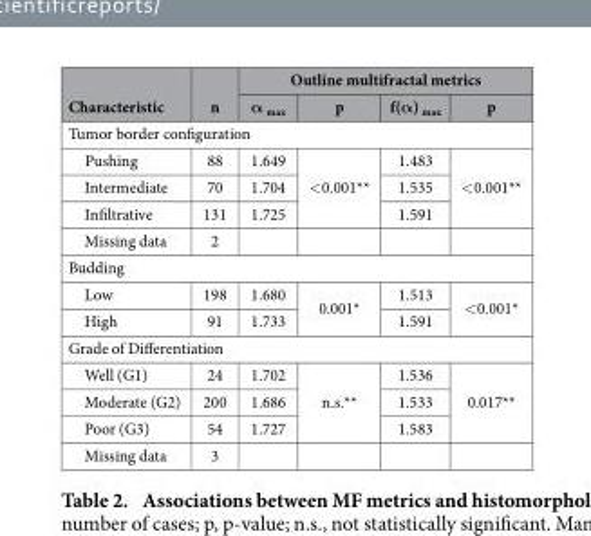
<table><thead><tr><td rowspan="2">Characteristic</td><td rowspan="2">n</td><td colspan="4">Outline multifractal metrics</td></tr><tr><td>α <sub>max</sub></td><td>p</td><td>f(α) <sub>max</sub></td><td>p</td></tr></thead><tbody><tr><td colspan="6">Tumor border configuration</td></tr><tr><td>Pushing</td><td>88</td><td>1.649</td><td rowspan="3">&lt; 0.001**</td><td>1.483</td><td rowspan="3">&lt; 0.001**</td></tr><tr><td>Intermediate</td><td>70</td><td>1.704</td><td>1.535</td></tr><tr><td>Infiltrative</td><td>131</td><td>1.725</td><td>1.591</td></tr><tr><td>Missing data</td><td>2</td><td></td><td></td><td></td><td></td></tr><tr><td colspan="6">Budding</td></tr><tr><td>Low</td><td>198</td><td>1.680</td><td rowspan="2">0.001*</td><td>1.513</td><td rowspan="2">&lt; 0.001*</td></tr><tr><td>High</td><td>91</td><td>1.733</td><td>1.591</td></tr><tr><td colspan="6">Grade of Differentiation</td></tr><tr><td>Well (G1)</td><td>24</td><td>1.702</td><td rowspan="3">n.s.**</td><td>1.536</td><td rowspan="3">0.017**</td></tr><tr><td>Moderate (G2)</td><td>200</td><td>1.686</td><td>1.533</td></tr><tr><td>Poor (G3)</td><td>54</td><td>1.727</td><td>1.583</td></tr><tr><td>Missing data</td><td>3</td><td></td><td></td><td></td><td></td></tr></tbody></table>